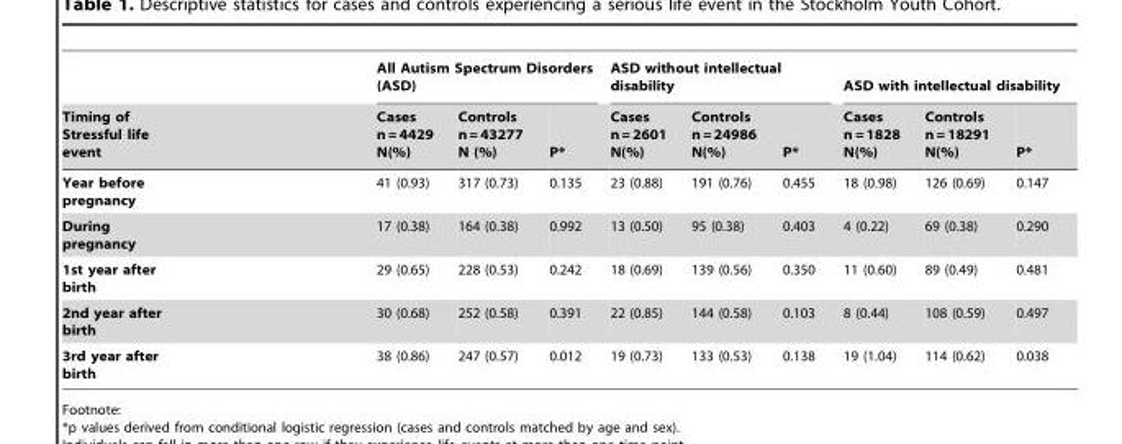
<table><thead><tr><td rowspan="2">Timing of Stressful life event</td><td colspan="3">All Autism Spectrum Disorders (ASD)</td><td colspan="3">ASD without intellectual disability</td><td colspan="3">ASD with intellectual disability</td></tr><tr><td>Cases n = 4429 N(%)</td><td>Controls n = 43277 N (%)</td><td>P*</td><td>Cases n = 2601 N(%)</td><td>Controls n = 24986 N(%)</td><td>P*</td><td>Cases n = 1828 N(%)</td><td>Controls n = 18291 N(%)</td><td>P*</td></tr></thead><tbody><tr><td>Year before pregnancy</td><td>41 (0.93)</td><td>317 (0.73)</td><td>0.135</td><td>23 (0.88)</td><td>191 (0.76)</td><td>0.455</td><td>18 (0.98)</td><td>126 (0.69)</td><td>0.147</td></tr><tr><td>During pregnancy</td><td>17 (0.38)</td><td>164 (0.38)</td><td>0.992</td><td>13 (0.50)</td><td>95 (0.38)</td><td>0.403</td><td>4 (0.22)</td><td>69 (0.38)</td><td>0.290</td></tr><tr><td>1st year after birth</td><td>29 (0.65)</td><td>228 (0.53)</td><td>0.242</td><td>18 (0.69)</td><td>139 (0.56)</td><td>0.350</td><td>11 (0.60)</td><td>89 (0.49)</td><td>0.481</td></tr><tr><td>2nd year after birth</td><td>30 (0.68)</td><td>252 (0.58)</td><td>0.391</td><td>22 (0.85)</td><td>144 (0.58)</td><td>0.103</td><td>8 (0.44)</td><td>108 (0.59)</td><td>0.497</td></tr><tr><td>3rd year after birth</td><td>38 (0.86)</td><td>247 (0.57)</td><td>0.012</td><td>19 (0.73)</td><td>133 (0.53)</td><td>0.138</td><td>19 (1.04)</td><td>114 (0.62)</td><td>0.038</td></tr></tbody></table>